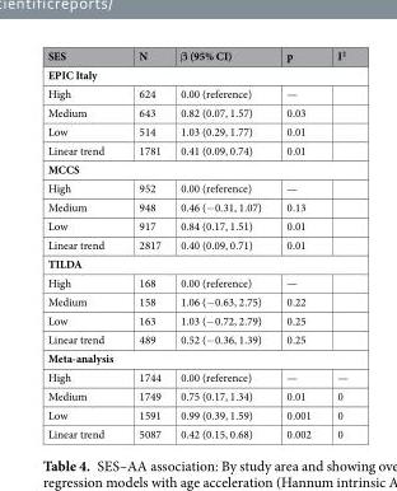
<table><thead><tr><td>SES</td><td>N</td><td>β (95% CI)</td><td>p</td><td>I<sup>2</sup></td></tr></thead><tbody><tr><td colspan="5">EPIC Italy</td></tr><tr><td>High</td><td>624</td><td>0.00 (reference)</td><td>—</td><td></td></tr><tr><td>Medium</td><td>643</td><td>0.82 (0.07, 1.57)</td><td>0.03</td><td></td></tr><tr><td>Low</td><td>514</td><td>1.03 (0.29, 1.77)</td><td>0.01</td><td></td></tr><tr><td>Linear trend</td><td>1781</td><td>0.41 (0.09, 0.74)</td><td>0.01</td><td></td></tr><tr><td colspan="5">MCCS</td></tr><tr><td>High</td><td>952</td><td>0.00 (reference)</td><td>—</td><td></td></tr><tr><td>Medium</td><td>948</td><td>0.46 (−0.31, 1.07)</td><td>0.13</td><td></td></tr><tr><td>Low</td><td>917</td><td>0.84 (0.17, 1.51)</td><td>0.01</td><td></td></tr><tr><td>Linear trend</td><td>2817</td><td>0.40 (0.09, 0.71)</td><td>0.01</td><td></td></tr><tr><td colspan="5">TILDA</td></tr><tr><td>High</td><td>168</td><td>0.00 (reference)</td><td>—</td><td></td></tr><tr><td>Medium</td><td>158</td><td>1.06 (−0.63, 2.75)</td><td>0.22</td><td></td></tr><tr><td>Low</td><td>163</td><td>1.03 (−0.72, 2.79)</td><td>0.25</td><td></td></tr><tr><td>Linear trend</td><td>489</td><td>0.52 (−0.36, 1.39)</td><td>0.25</td><td></td></tr><tr><td colspan="5">Meta-analysis</td></tr><tr><td>High</td><td>1744</td><td>0.00 (reference)</td><td>—</td><td>—</td></tr><tr><td>Medium</td><td>1749</td><td>0.75 (0.17, 1.34)</td><td>0.01</td><td>0</td></tr><tr><td>Low</td><td>1591</td><td>0.99 (0.39, 1.59)</td><td>0.001</td><td>0</td></tr><tr><td>Linear trend</td><td>5087</td><td>0.42 (0.15, 0.68)</td><td>0.002</td><td>0</td></tr></tbody></table>